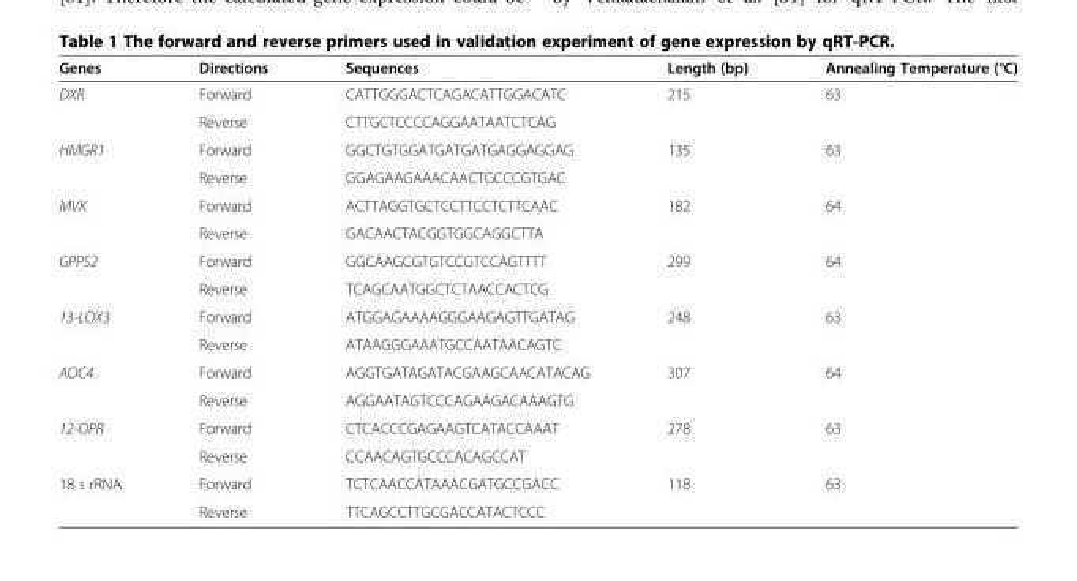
<table><thead><tr><td>Genes</td><td>Directions</td><td>Sequences</td><td>Length (bp)</td><td>Annealing Temperature (°C)</td></tr></thead><tbody><tr><td rowspan="2">DXR</td><td>Forward</td><td>CATTGGGACTCAGACATTGGACATC</td><td>215</td><td>63</td></tr><tr><td>Reverse</td><td>CTTGCTCCCCAGGAATAATCTCAG</td><td></td><td></td></tr><tr><td rowspan="2">HMGR1</td><td>Forward</td><td>GGCTGTGGATGATGATGAGGAGGAG</td><td>135</td><td>63</td></tr><tr><td>Reverse</td><td>GGAGAAGAAACAACTGCCCGTGAC</td><td></td><td></td></tr><tr><td rowspan="2">MVK</td><td>Forward</td><td>ACTTAGGTGCTCCTTCCTCTTCAAC</td><td>182</td><td>64</td></tr><tr><td>Reverse</td><td>GACAACTACGGTGGCAGGCTTA</td><td></td><td></td></tr><tr><td rowspan="2">GPPS2</td><td>Forward</td><td>GGCAAGCGTGTCCGTCCAGTTTT</td><td>299</td><td>64</td></tr><tr><td>Reverse</td><td>TCAGCAATGGCTCTAACCACTCG</td><td></td><td></td></tr><tr><td rowspan="2">13-LOX3</td><td>Forward</td><td>ATGGAGAAAAGGGAAGAGTTGATAG</td><td>248</td><td>63</td></tr><tr><td>Reverse</td><td>ATAAGGGAAATGCCAATAACAGTC</td><td></td><td></td></tr><tr><td rowspan="2">AOC4</td><td>Forward</td><td>AGGTGATAGATACGAAGCAACATACAG</td><td>307</td><td>64</td></tr><tr><td>Reverse</td><td>AGGAATAGTCCCAGAAGACAAAGTG</td><td></td><td></td></tr><tr><td rowspan="2">12-OPR</td><td>Forward</td><td>CTCACCCGAGAAGTCATACCAAAT</td><td>278</td><td>63</td></tr><tr><td>Reverse</td><td>CCAACAGTGCCCACAGCCAT</td><td></td><td></td></tr><tr><td rowspan="2">18 s rRNA</td><td>Forward</td><td>TCTCAACCATAAACGATGCCGACC</td><td>118</td><td>63</td></tr><tr><td>Reverse</td><td>TTCAGCCTTGCGACCATACTCCC</td><td></td><td></td></tr></tbody></table>